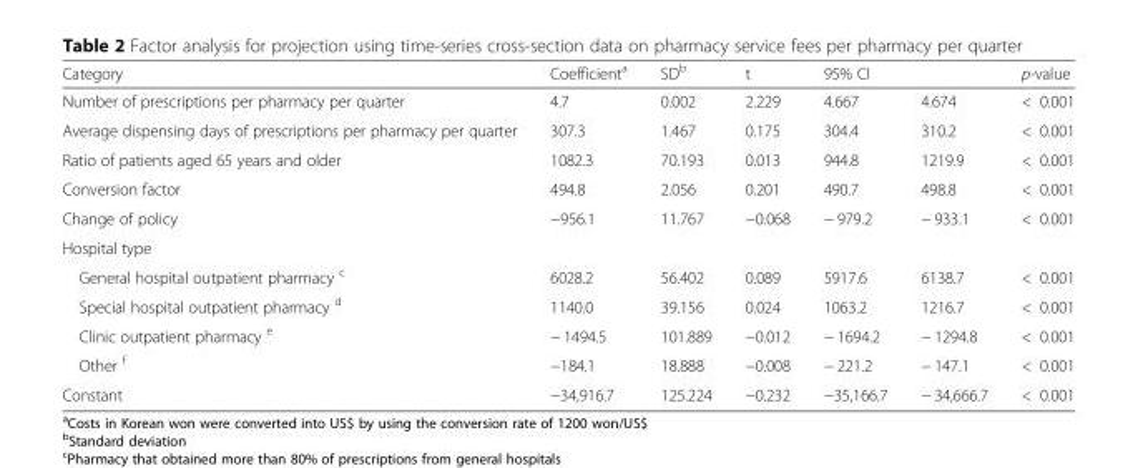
<table><thead><tr><td rowspan="2">Category Number of prescriptions per pharmacy per quarter</td><td rowspan="2">Coefficient<sup>a</sup> 4.7</td><td rowspan="2">SD<sup>b</sup> 0.002</td><td rowspan="2">t 2.229</td><td colspan="2">95% CI</td><td rowspan="2">p-value &lt; 0.001</td></tr><tr><td>4.667</td><td>4.674</td></tr></thead><tbody><tr><td>Average dispensing days of prescriptions per pharmacy per quarter</td><td>307.3</td><td>1.467</td><td>0.175</td><td>304.4</td><td>310.2</td><td>&lt; 0.001</td></tr><tr><td>Ratio of patients aged 65 years and older</td><td>1082.3</td><td>70.193</td><td>0.013</td><td>944.8</td><td>1219.9</td><td>&lt; 0.001</td></tr><tr><td>Conversion factor</td><td>494.8</td><td>2.056</td><td>0.201</td><td>490.7</td><td>498.8</td><td>&lt; 0.001</td></tr><tr><td>Change of policy</td><td>−956.1</td><td>11.767</td><td>−0.068</td><td>− 979.2</td><td>− 933.1</td><td>&lt; 0.001</td></tr><tr><td colspan="7">Hospital type</td></tr><tr><td>General hospital outpatient pharmacy <sup>c</sup></td><td>6028.2</td><td>56.402</td><td>0.089</td><td>5917.6</td><td>6138.7</td><td>&lt; 0.001</td></tr><tr><td>Special hospital outpatient pharmacy <sup>d</sup></td><td>1140.0</td><td>39.156</td><td>0.024</td><td>1063.2</td><td>1216.7</td><td>&lt; 0.001</td></tr><tr><td>Clinic outpatient pharmacy <sup>e</sup></td><td>− 1494.5</td><td>101.889</td><td>−0.012</td><td>− 1694.2</td><td>− 1294.8</td><td>&lt; 0.001</td></tr><tr><td>Other <sup>f</sup></td><td>−184.1</td><td>18.888</td><td>−0.008</td><td>− 221.2</td><td>− 147.1</td><td>&lt; 0.001</td></tr><tr><td>Constant</td><td>−34,916.7</td><td>125.224</td><td>−0.232</td><td>−35,166.7</td><td>− 34,666.7</td><td>&lt; 0.001</td></tr></tbody></table>